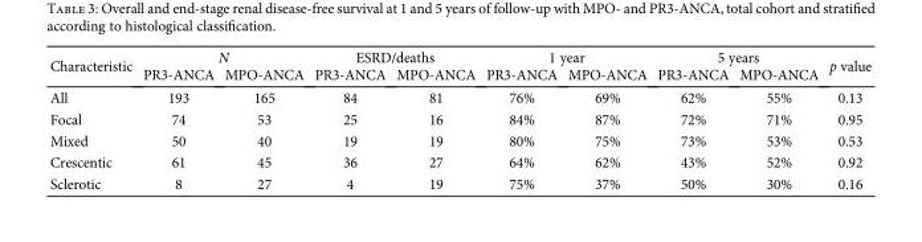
<table><thead><tr><td rowspan="2">Characteristic</td><td colspan="2">N</td><td colspan="2">ESRD/deaths</td><td colspan="2">1 year</td><td colspan="2">5 years</td><td rowspan="2">p value</td></tr><tr><td>PR3-ANCA</td><td>MPO-ANCA</td><td>PR3-ANCA</td><td>MPO-ANCA</td><td>PR3-ANCA</td><td>MPO-ANCA</td><td>PR3-ANCA</td><td>MPO-ANCA</td></tr></thead><tbody><tr><td>All</td><td>193</td><td>165</td><td>84</td><td>81</td><td>76%</td><td>69%</td><td>62%</td><td>55%</td><td>0.13</td></tr><tr><td>Focal</td><td>74</td><td>53</td><td>25</td><td>16</td><td>84%</td><td>87%</td><td>72%</td><td>71%</td><td>0.95</td></tr><tr><td>Mixed</td><td>50</td><td>40</td><td>19</td><td>19</td><td>80%</td><td>75%</td><td>73%</td><td>53%</td><td>0.53</td></tr><tr><td>Crescentic</td><td>61</td><td>45</td><td>36</td><td>27</td><td>64%</td><td>62%</td><td>43%</td><td>52%</td><td>0.92</td></tr><tr><td>Sclerotic</td><td>8</td><td>27</td><td>4</td><td>19</td><td>75%</td><td>37%</td><td>50%</td><td>30%</td><td>0.16</td></tr></tbody></table>